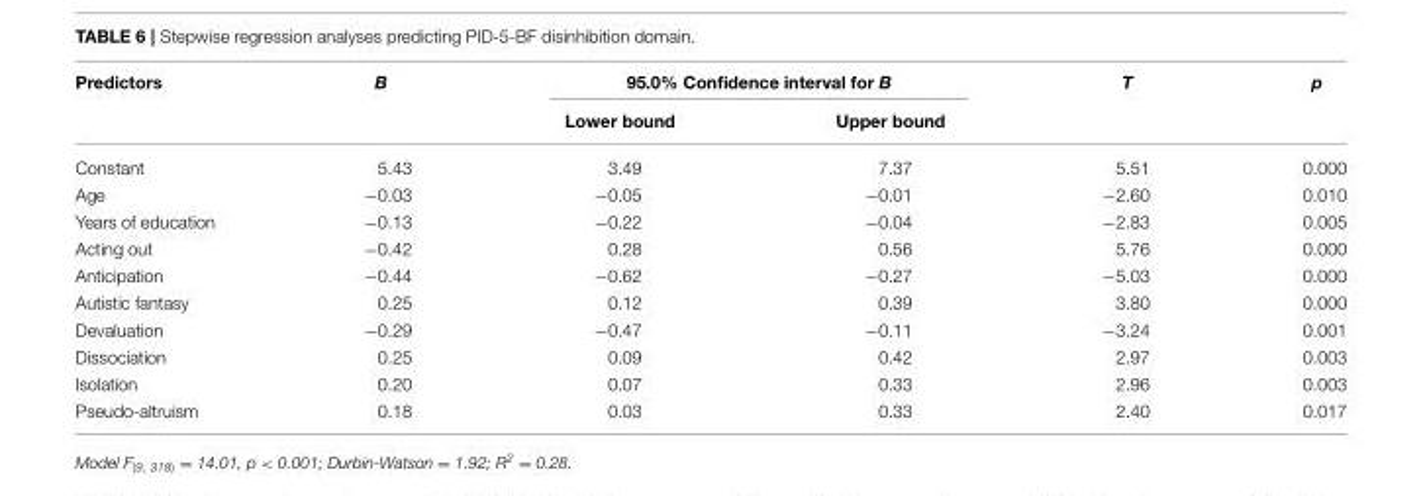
<table><thead><tr><td rowspan="2">Predictors</td><td rowspan="2">B</td><td colspan="2">95.0% Confidence interval for B</td><td rowspan="2">T</td><td rowspan="2">p</td></tr><tr><td>Lower bound</td><td>Upper bound</td></tr></thead><tbody><tr><td>Constant</td><td>5.43</td><td>3.49</td><td>7.37</td><td>5.51</td><td>0.000</td></tr><tr><td>Age</td><td>−0.03</td><td>−0.05</td><td>−0.01</td><td>−2.60</td><td>0.010</td></tr><tr><td>Years of education</td><td>−0.13</td><td>−0.22</td><td>−0.04</td><td>−2.83</td><td>0.005</td></tr><tr><td>Acting out</td><td>−0.42</td><td>0.28</td><td>0.56</td><td>5.76</td><td>0.000</td></tr><tr><td>Anticipation</td><td>−0.44</td><td>−0.62</td><td>−0.27</td><td>−5.03</td><td>0.000</td></tr><tr><td>Autistic fantasy</td><td>0.25</td><td>0.12</td><td>0.39</td><td>3.80</td><td>0.000</td></tr><tr><td>Devaluation</td><td>−0.29</td><td>−0.47</td><td>−0.11</td><td>−3.24</td><td>0.001</td></tr><tr><td>Dissociation</td><td>0.25</td><td>0.09</td><td>0.42</td><td>2.97</td><td>0.003</td></tr><tr><td>Isolation</td><td>0.20</td><td>0.07</td><td>0.33</td><td>2.96</td><td>0.003</td></tr><tr><td>Pseudo-altruism</td><td>0.18</td><td>0.03</td><td>0.33</td><td>2.40</td><td>0.017</td></tr></tbody></table>